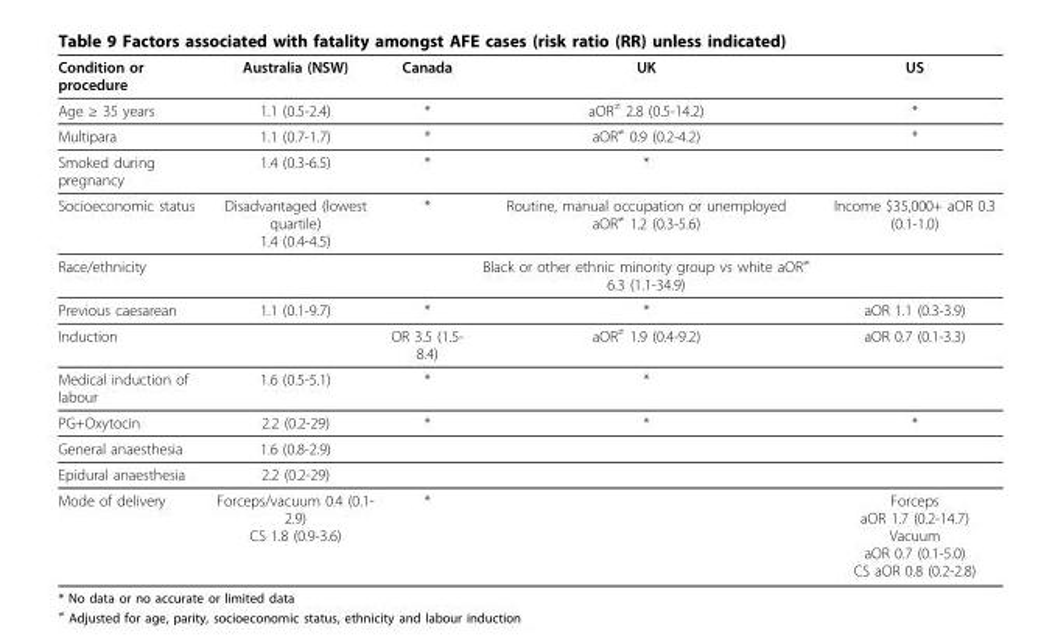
<table><thead><tr><td>Condition or procedure</td><td>Australia (NSW)</td><td>Canada</td><td>UK</td><td>US</td></tr></thead><tbody><tr><td>Age ≥ 35 years</td><td>1.1 (0.5-2.4)</td><td>*</td><td>aOR<sup>≠</sup> 2.8 (0.5-14.2)</td><td>*</td></tr><tr><td>Multipara</td><td>1.1 (0.7-1.7)</td><td>*</td><td>aOR<sup>≠</sup> 0.9 (0.2-4.2)</td><td>*</td></tr><tr><td>Smoked during pregnancy</td><td>1.4 (0.3-6.5)</td><td>*</td><td>*</td><td></td></tr><tr><td>Socioeconomic status</td><td>Disadvantaged (lowest quartile) 1.4 (0.4-4.5)</td><td>*</td><td>Routine, manual occupation or unemployed aOR<sup>≠</sup> 1.2 (0.3-5.6)</td><td>Income $35,000+ aOR 0.3 (0.1-1.0)</td></tr><tr><td>Race/ethnicity</td><td></td><td></td><td>Black or other ethnic minority group vs white aOR<sup>≠</sup> 6.3 (1.1-34.9)</td><td></td></tr><tr><td>Previous caesarean</td><td>1.1 (0.1-9.7)</td><td>*</td><td>*</td><td>aOR 1.1 (0.3-3.9)</td></tr><tr><td>Induction</td><td></td><td>OR 3.5 (1.5- 8.4)</td><td>aOR<sup>≠</sup> 1.9 (0.4-9.2)</td><td>aOR 0.7 (0.1-3.3)</td></tr><tr><td>Medical induction of labour</td><td>1.6 (0.5-5.1)</td><td>*</td><td>*</td><td></td></tr><tr><td>PG+Oxytocin</td><td>2.2 (0.2-29)</td><td>*</td><td>*</td><td>*</td></tr><tr><td>General anaesthesia</td><td>1.6 (0.8-2.9)</td><td></td><td></td><td></td></tr><tr><td>Epidural anaesthesia</td><td>2.2 (0.2-29)</td><td></td><td></td><td></td></tr><tr><td>Mode of delivery</td><td>Forceps/vacuum 0.4 (0.1- 2.9) CS 1.8 (0.9-3.6)</td><td>*</td><td></td><td>Forceps aOR 1.7 (0.2-14.7) Vacuum aOR 0.7 (0.1-5.0) CS aOR 0.8 (0.2-2.8)</td></tr></tbody></table>